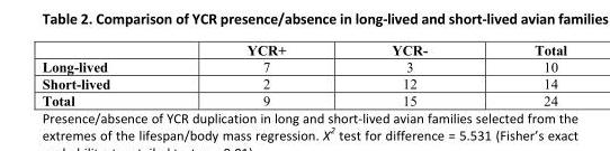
<table><thead><tr><td></td><td>YCR+</td><td>YCR-</td><td>Total</td></tr></thead><tbody><tr><td>Long-lived</td><td>7</td><td>3</td><td>10</td></tr><tr><td>Short-lived</td><td>2</td><td>12</td><td>14</td></tr><tr><td>Total</td><td>9</td><td>15</td><td>24</td></tr></tbody></table>